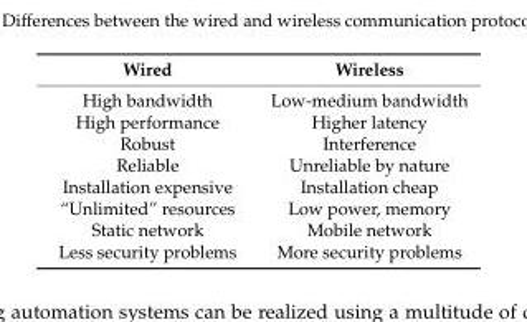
<table><thead><tr><td>Wired</td><td>Wireless</td></tr></thead><tbody><tr><td>High bandwidth</td><td>Low-medium bandwidth</td></tr><tr><td>High performance</td><td>Higher latency</td></tr><tr><td>Robust</td><td>Interference</td></tr><tr><td>Reliable</td><td>Unreliable by nature</td></tr><tr><td>Installation expensive</td><td>Installation cheap</td></tr><tr><td>“Unlimited” resources</td><td>Low power, memory</td></tr><tr><td>Static network</td><td>Mobile network</td></tr><tr><td>Less security problems</td><td>More security problems</td></tr></tbody></table>